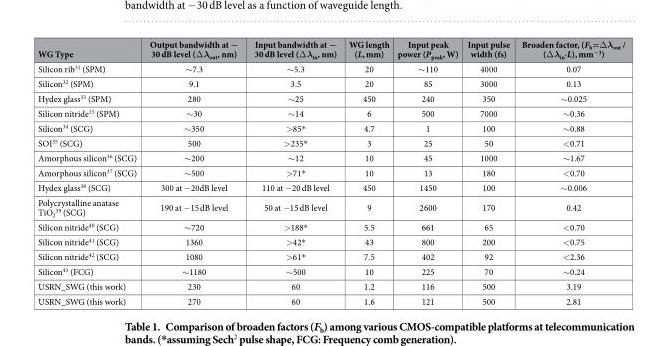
<table><thead><tr><td>WG Type</td><td>Output bandwidth at − 30 dB level (Δ λ<sub>out</sub>, nm)</td><td>Input bandwidth at − 30 dB level (Δ λ<sub>in</sub>, nm)</td><td>WG length (L, mm)</td><td>Input peak power (P<sub>peak</sub>, W)</td><td>Input pulse width (fs)</td><td>Broaden factor, (F<sub>b</sub>=Δ λ<sub>out</sub> / (Δ λ<sub>in</sub>·L), mm<sup>−1</sup>)</td></tr></thead><tbody><tr><td>Silicon rib<sup>31</sup> (SPM)</td><td>∼ 7.3</td><td>∼ 5.3</td><td>20</td><td>∼ 110</td><td>4000</td><td>0.07</td></tr><tr><td>Silicon<sup>32</sup> (SPM)</td><td>9.1</td><td>3.5</td><td>20</td><td>85</td><td>3000</td><td>0.13</td></tr><tr><td>Hydex glass<sup>33</sup> (SPM)</td><td>280</td><td>∼ 25</td><td>450</td><td>240</td><td>350</td><td>∼ 0.025</td></tr><tr><td>Silicon nitride<sup>15</sup> (SPM)</td><td>∼ 30</td><td>∼ 14</td><td>6</td><td>500</td><td>7000</td><td>∼ 0.36</td></tr><tr><td>Silicon<sup>34</sup> (SCG)</td><td>∼ 350</td><td>&gt; 85*</td><td>4.7</td><td>1</td><td>100</td><td>∼ 0.88</td></tr><tr><td>SOI<sup>35</sup> (SCG)</td><td>500</td><td>&gt; 235*</td><td>3</td><td>25</td><td>50</td><td>&lt; 0.71</td></tr><tr><td>Amorphous silicon<sup>36</sup> (SCG)</td><td>∼ 200</td><td>∼ 12</td><td>10</td><td>45</td><td>1000</td><td>∼ 1.67</td></tr><tr><td>Amorphous silicon<sup>37</sup> (SCG)</td><td>∼ 500</td><td>&gt; 71*</td><td>10</td><td>13</td><td>180</td><td>&lt; 0.70</td></tr><tr><td>Hydex glass<sup>38</sup> (SCG)</td><td>300 at − 20dB level</td><td>110 at − 20 dB level</td><td>450</td><td>1450</td><td>100</td><td>∼ 0.006</td></tr><tr><td>Polycrystalline anatase TiO<sub>2</sub> <sup>39</sup> (SCG)</td><td>190 at − 15 dB level</td><td>50 at − 15 dB level</td><td>9</td><td>2600</td><td>170</td><td>0.42</td></tr><tr><td>Silicon nitride<sup>40</sup> (SCG)</td><td>∼ 720</td><td>&gt; 188*</td><td>5.5</td><td>661</td><td>65</td><td>&lt; 0.70</td></tr><tr><td>Silicon nitride<sup>41</sup> (SCG)</td><td>1360</td><td>&gt; 42*</td><td>43</td><td>800</td><td>200</td><td>&lt; 0.75</td></tr><tr><td>Silicon nitride<sup>42</sup> (SCG)</td><td>1080</td><td>&gt; 61*</td><td>7.5</td><td>402</td><td>92</td><td>&lt; 2.36</td></tr><tr><td>Silicon<sup>43</sup> (FCG)</td><td>∼ 1180</td><td>∼ 500</td><td>10</td><td>225</td><td>70</td><td>∼ 0.24</td></tr><tr><td>USRN_SWG (this work)</td><td>230</td><td>60</td><td>1.2</td><td>116</td><td>500</td><td>3.19</td></tr><tr><td>USRN_SWG (this work)</td><td>270</td><td>60</td><td>1.6</td><td>121</td><td>500</td><td>2.81</td></tr></tbody></table>